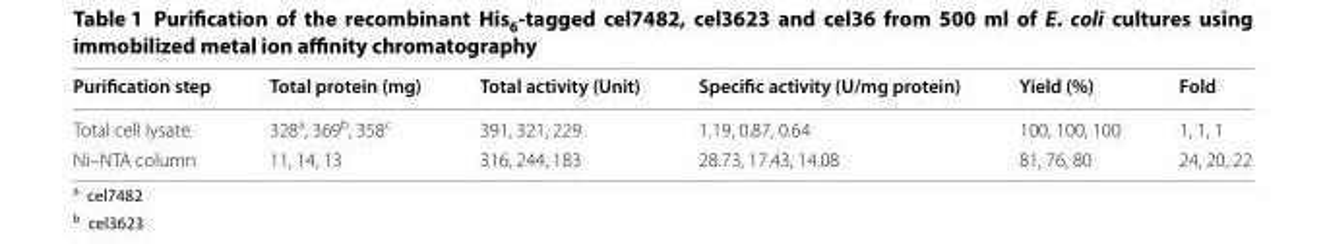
<table><thead><tr><td>Purification step</td><td>Total protein (mg)</td><td>Total activity (Unit)</td><td>Specific activity (U/mg protein)</td><td>Yield (%)</td><td>Fold</td></tr></thead><tbody><tr><td>Total cell lysate</td><td>328<sup>a</sup>, 369<sup>b</sup>, 358<sup>c</sup></td><td>391, 321, 229</td><td>1.19, 0.87, 0.64</td><td>100, 100, 100</td><td>1, 1, 1</td></tr><tr><td>Ni–NTA column</td><td>11, 14, 13</td><td>316, 244, 183</td><td>28.73, 17.43, 14.08</td><td>81, 76, 80</td><td>24, 20, 22</td></tr></tbody></table>